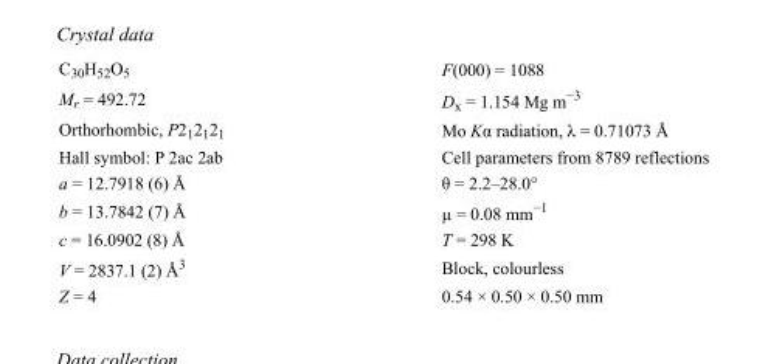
<table><tbody><tr><td>C<sub>30</sub>H<sub>52</sub>O<sub>5</sub></td><td>F(000) = 1088</td></tr><tr><td>M<sub>r</sub> = 492.72</td><td>D<sub>x</sub> = 1.154 Mg m<sup>−3</sup></td></tr><tr><td>Orthorhombic, P2<sub>1</sub>2<sub>1</sub>2<sub>1</sub></td><td>Mo Kα radiation, λ = 0.71073 Å</td></tr><tr><td>Hall symbol: P 2ac 2ab</td><td>Cell parameters from 8789 reflections</td></tr><tr><td>a = 12.7918 (6) Å</td><td>θ = 2.2–28.0°</td></tr><tr><td>b = 13.7842 (7) Å</td><td>µ = 0.08 mm<sup>−1</sup></td></tr><tr><td>c = 16.0902 (8) Å</td><td>T = 298 K</td></tr><tr><td>V = 2837.1 (2) Å<sup>3</sup></td><td>Block, colourless</td></tr><tr><td>Z = 4</td><td>0.54 × 0.50 × 0.50 mm</td></tr></tbody></table>